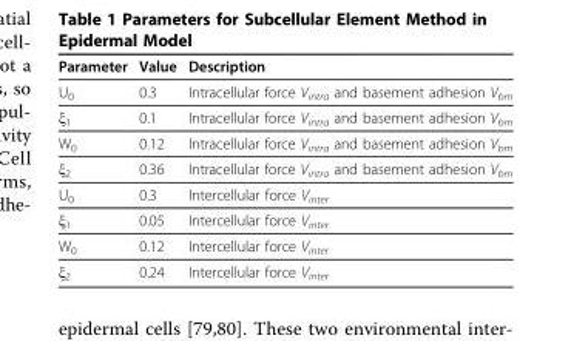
<table><thead><tr><td>Parameter</td><td>Value</td><td>Description</td></tr></thead><tbody><tr><td>U<sub>0</sub></td><td>0.3</td><td>Intracellular force V<sub>intra</sub> and basement adhesion V<sub>bm</sub></td></tr><tr><td>ξ<sub>1</sub></td><td>0.1</td><td>Intracellular force V<sub>intra</sub> and basement adhesion V<sub>bm</sub></td></tr><tr><td>W<sub>0</sub></td><td>0.12</td><td>Intracellular force V<sub>intra</sub> and basement adhesion V<sub>bm</sub></td></tr><tr><td>ξ<sub>2</sub></td><td>0.36</td><td>Intracellular force V<sub>intra</sub> and basement adhesion V<sub>bm</sub></td></tr><tr><td>U<sub>0</sub></td><td>0.3</td><td>Intercellular force V<sub>inter</sub></td></tr><tr><td>ξ<sub>1</sub></td><td>0.05</td><td>Intercellular force V<sub>inter</sub></td></tr><tr><td>W<sub>0</sub></td><td>0.12</td><td>Intercellular force V<sub>inter</sub></td></tr><tr><td>ξ<sub>2</sub></td><td>0.24</td><td>Intercellular force V<sub>inter</sub></td></tr></tbody></table>